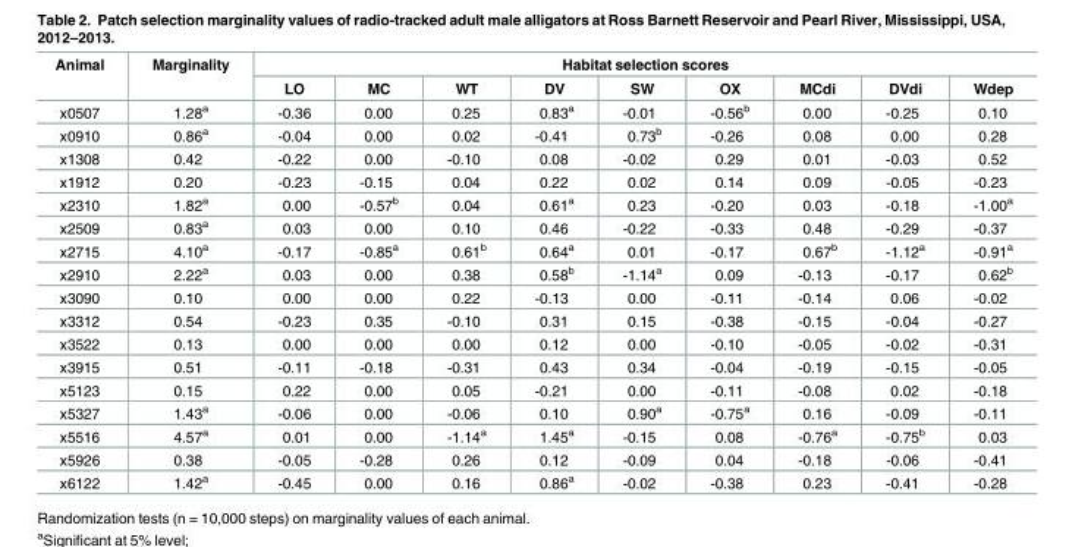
<table><thead><tr><td rowspan="2">Animal</td><td rowspan="2">Marginality</td><td colspan="9">Habitat selection scores</td></tr><tr><td>LO</td><td>MC</td><td>WT</td><td>DV</td><td>SW</td><td>OX</td><td>MCdi</td><td>DVdi</td><td>Wdep</td></tr></thead><tbody><tr><td>x0507</td><td>1.28<sup>a</sup></td><td>-0.36</td><td>0.00</td><td>0.25</td><td>0.83<sup>a</sup></td><td>-0.01</td><td>-0.56<sup>b</sup></td><td>0.00</td><td>-0.25</td><td>0.10</td></tr><tr><td>x0910</td><td>0.86<sup>a</sup></td><td>-0.04</td><td>0.00</td><td>0.02</td><td>-0.41</td><td>0.73<sup>b</sup></td><td>-0.26</td><td>0.08</td><td>0.00</td><td>0.28</td></tr><tr><td>x1308</td><td>0.42</td><td>-0.22</td><td>0.00</td><td>-0.10</td><td>0.08</td><td>-0.02</td><td>0.29</td><td>0.01</td><td>-0.03</td><td>0.52</td></tr><tr><td>x1912</td><td>0.20</td><td>-0.23</td><td>-0.15</td><td>0.04</td><td>0.22</td><td>0.02</td><td>0.14</td><td>0.09</td><td>-0.05</td><td>-0.23</td></tr><tr><td>x2310</td><td>1.82<sup>a</sup></td><td>0.00</td><td>-0.57<sup>b</sup></td><td>0.04</td><td>0.61<sup>a</sup></td><td>0.23</td><td>-0.20</td><td>0.03</td><td>-0.18</td><td>-1.00<sup>a</sup></td></tr><tr><td>x2509</td><td>0.83<sup>a</sup></td><td>0.03</td><td>0.00</td><td>0.10</td><td>0.46</td><td>-0.22</td><td>-0.33</td><td>0.48</td><td>-0.29</td><td>-0.37</td></tr><tr><td>x2715</td><td>4.10<sup>a</sup></td><td>-0.17</td><td>-0.85<sup>a</sup></td><td>0.61<sup>b</sup></td><td>0.64<sup>a</sup></td><td>0.01</td><td>-0.17</td><td>0.67<sup>b</sup></td><td>-1.12<sup>a</sup></td><td>-0.91<sup>a</sup></td></tr><tr><td>x2910</td><td>2.22<sup>a</sup></td><td>0.03</td><td>0.00</td><td>0.38</td><td>0.58<sup>b</sup></td><td>-1.14<sup>a</sup></td><td>0.09</td><td>-0.13</td><td>-0.17</td><td>0.62<sup>b</sup></td></tr><tr><td>x3090</td><td>0.10</td><td>0.00</td><td>0.00</td><td>0.22</td><td>-0.13</td><td>0.00</td><td>-0.11</td><td>-0.14</td><td>0.06</td><td>-0.02</td></tr><tr><td>x3312</td><td>0.54</td><td>-0.23</td><td>0.35</td><td>-0.10</td><td>0.31</td><td>0.15</td><td>-0.38</td><td>-0.15</td><td>-0.04</td><td>-0.27</td></tr><tr><td>x3522</td><td>0.13</td><td>0.00</td><td>0.00</td><td>0.00</td><td>0.12</td><td>0.00</td><td>-0.10</td><td>-0.05</td><td>-0.02</td><td>-0.31</td></tr><tr><td>x3915</td><td>0.51</td><td>-0.11</td><td>-0.18</td><td>-0.31</td><td>0.43</td><td>0.34</td><td>-0.04</td><td>-0.19</td><td>-0.15</td><td>-0.05</td></tr><tr><td>x5123</td><td>0.15</td><td>0.22</td><td>0.00</td><td>0.05</td><td>-0.21</td><td>0.00</td><td>-0.11</td><td>-0.08</td><td>0.02</td><td>-0.18</td></tr><tr><td>x5327</td><td>1.43<sup>a</sup></td><td>-0.06</td><td>0.00</td><td>-0.06</td><td>0.10</td><td>0.90<sup>a</sup></td><td>-0.75<sup>a</sup></td><td>0.16</td><td>-0.09</td><td>-0.11</td></tr><tr><td>x5516</td><td>4.57<sup>a</sup></td><td>0.01</td><td>0.00</td><td>-1.14<sup>a</sup></td><td>1.45<sup>a</sup></td><td>-0.15</td><td>0.08</td><td>-0.76<sup>a</sup></td><td>-0.75<sup>b</sup></td><td>0.03</td></tr><tr><td>x5926</td><td>0.38</td><td>-0.05</td><td>-0.28</td><td>0.26</td><td>0.12</td><td>-0.09</td><td>0.04</td><td>-0.18</td><td>-0.06</td><td>-0.41</td></tr><tr><td>x6122</td><td>1.42<sup>a</sup></td><td>-0.45</td><td>0.00</td><td>0.16</td><td>0.86<sup>a</sup></td><td>-0.02</td><td>-0.38</td><td>0.23</td><td>-0.41</td><td>-0.28</td></tr></tbody></table>